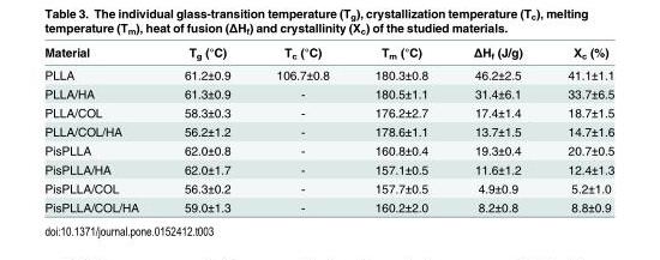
<table><thead><tr><td>Material</td><td>T<sub>g</sub> (°C)</td><td>T<sub>c</sub> (°C)</td><td>T<sub>m</sub> (°C)</td><td>ΔH<sub>f</sub> (J/g)</td><td>Χ<sub>c</sub> (%)</td></tr></thead><tbody><tr><td>PLLA</td><td>61.2±0.9</td><td>106.7±0.8</td><td>180.3±0.8</td><td>46.2±2.5</td><td>41.1±1.1</td></tr><tr><td>PLLA/HA</td><td>61.3±0.9</td><td>-</td><td>180.5±1.1</td><td>31.4±6.1</td><td>33.7±6.5</td></tr><tr><td>PLLA/COL</td><td>58.3±0.3</td><td>-</td><td>176.2±2.7</td><td>17.4±1.4</td><td>18.7±1.5</td></tr><tr><td>PLLA/COL/HA</td><td>56.2±1.2</td><td>-</td><td>178.6±1.1</td><td>13.7±1.5</td><td>14.7±1.6</td></tr><tr><td>PisPLLA</td><td>62.0±0.8</td><td>-</td><td>160.8±0.4</td><td>19.3±0.4</td><td>20.7±0.5</td></tr><tr><td>PisPLLA/HA</td><td>62.0±1.7</td><td>-</td><td>157.1±0.5</td><td>11.6±1.2</td><td>12.4±1.3</td></tr><tr><td>PisPLLA/COL</td><td>56.3±0.2</td><td>-</td><td>157.7±0.5</td><td>4.9±0.9</td><td>5.2±1.0</td></tr><tr><td>PisPLLA/COL/HA</td><td>59.0±1.3</td><td>-</td><td>160.2±2.0</td><td>8.2±0.8</td><td>8.8±0.9</td></tr></tbody></table>